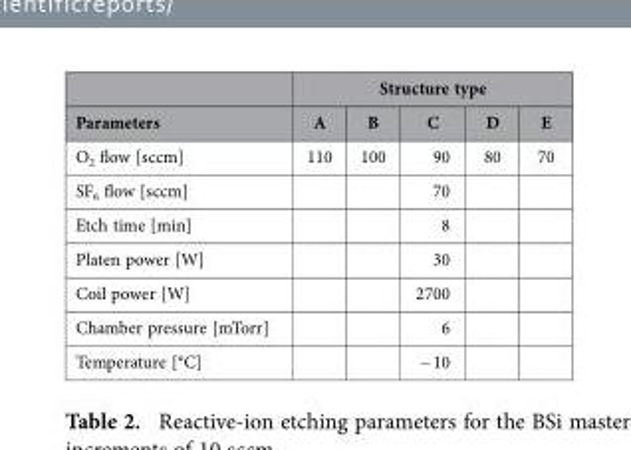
<table><thead><tr><td rowspan="2">Parameters</td><td colspan="5">Structure type</td></tr><tr><td>A</td><td>B</td><td>C</td><td>D</td><td>E</td></tr></thead><tbody><tr><td>O<sub>2</sub> flow [sccm]</td><td>110</td><td>100</td><td>90</td><td>80</td><td>70</td></tr><tr><td>SF<sub>6</sub> flow [sccm]</td><td></td><td></td><td>70</td><td></td><td></td></tr><tr><td>Etch time [min]</td><td></td><td></td><td>8</td><td></td><td></td></tr><tr><td>Platen power [W]</td><td></td><td></td><td>30</td><td></td><td></td></tr><tr><td>Coil power [W]</td><td></td><td></td><td>2700</td><td></td><td></td></tr><tr><td>Chamber pressure [mTorr]</td><td></td><td></td><td>6</td><td></td><td></td></tr><tr><td>Temperature [°C]</td><td></td><td></td><td>− 10</td><td></td><td></td></tr></tbody></table>